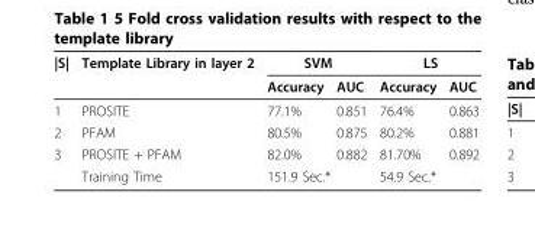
<table><thead><tr><td rowspan="2">|S|</td><td rowspan="2">Template Library in layer 2</td><td colspan="2">SVM</td><td colspan="2">LS</td></tr><tr><td>Accuracy</td><td>AUC</td><td>Accuracy</td><td>AUC</td></tr></thead><tbody><tr><td>1</td><td>PROSITE</td><td>77.1%</td><td>0.851</td><td>76.4%</td><td>0.863</td></tr><tr><td>2</td><td>PFAM</td><td>80.5%</td><td>0.875</td><td>80.2%</td><td>0.881</td></tr><tr><td rowspan="2">3</td><td>PROSITE + PFAM</td><td>82.0%</td><td>0.882</td><td>81.70%</td><td>0.892</td></tr><tr><td>Training Time</td><td colspan="2">151.9 Sec.*</td><td colspan="2">54.9 Sec.*</td></tr></tbody></table>